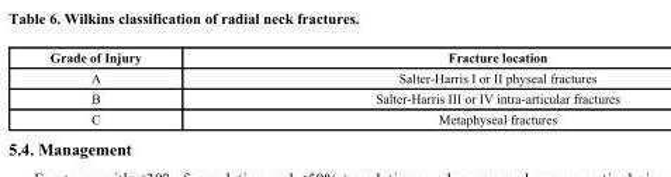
<table><thead><tr><td>Grade of Injury</td><td>Fracture location</td></tr></thead><tbody><tr><td>A</td><td>Salter-Harris I or II physeal fractures</td></tr><tr><td>B</td><td>Salter-Harris III or IV intra-articular fractures</td></tr><tr><td>C</td><td>Metaphyseal fractures</td></tr></tbody></table>